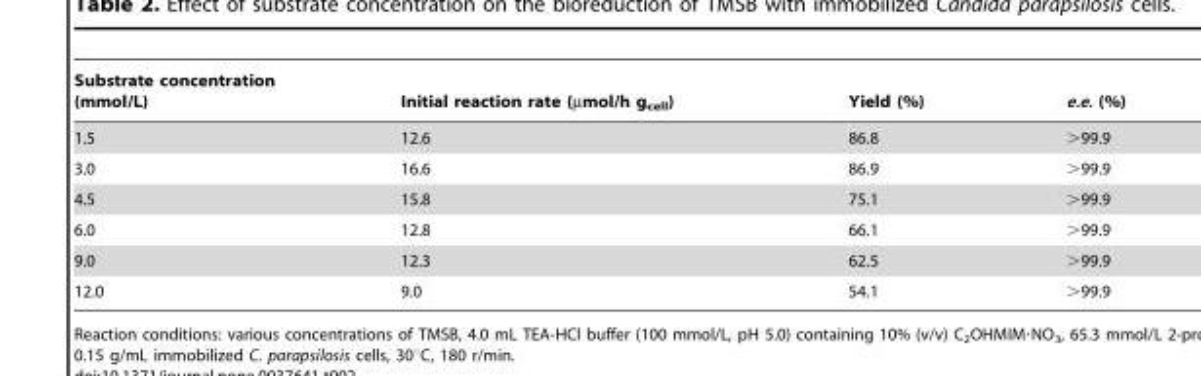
<table><thead><tr><td>Substrate concentration (mmol/L)</td><td>Initial reaction rate (µmol/h g<sub>cell</sub>)</td><td>Yield (%)</td><td>e.e. (%)</td></tr></thead><tbody><tr><td>1.5</td><td>12.6</td><td>86.8</td><td>&gt;99.9</td></tr><tr><td>3.0</td><td>16.6</td><td>86.9</td><td>&gt;99.9</td></tr><tr><td>4.5</td><td>15.8</td><td>75.1</td><td>&gt;99.9</td></tr><tr><td>6.0</td><td>12.8</td><td>66.1</td><td>&gt;99.9</td></tr><tr><td>9.0</td><td>12.3</td><td>62.5</td><td>&gt;99.9</td></tr><tr><td>12.0</td><td>9.0</td><td>54.1</td><td>&gt;99.9</td></tr></tbody></table>